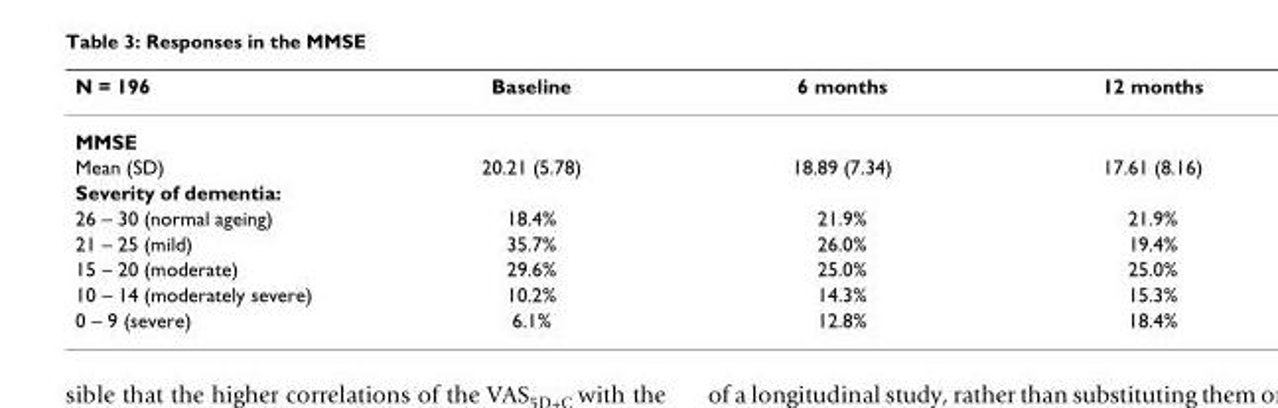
<table><thead><tr><td>N = 196</td><td>Baseline</td><td>6 months</td><td>12 months</td></tr></thead><tbody><tr><td colspan="4">MMSE</td></tr><tr><td>Mean (SD)</td><td>20.21 (5.78)</td><td>18.89 (7.34)</td><td>17.61 (8.16)</td></tr><tr><td colspan="4">Severity of dementia:</td></tr><tr><td>26 – 30 (normal ageing)</td><td>18.4%</td><td>21.9%</td><td>21.9%</td></tr><tr><td>21 – 25 (mild)</td><td>35.7%</td><td>26.0%</td><td>19.4%</td></tr><tr><td>15 – 20 (moderate)</td><td>29.6%</td><td>25.0%</td><td>25.0%</td></tr><tr><td>10 – 14 (moderately severe)</td><td>10.2%</td><td>14.3%</td><td>15.3%</td></tr><tr><td>0 – 9 (severe)</td><td>6.1%</td><td>12.8%</td><td>18.4%</td></tr></tbody></table>